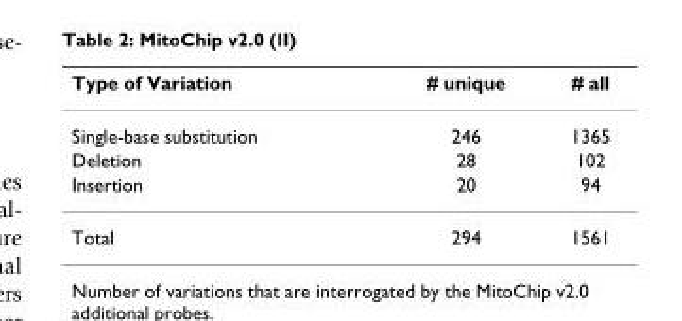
<table><thead><tr><td>Type of Variation</td><td># unique</td><td># all</td></tr></thead><tbody><tr><td>Single-base substitution</td><td>246</td><td>1365</td></tr><tr><td>Deletion</td><td>28</td><td>102</td></tr><tr><td>Insertion</td><td>20</td><td>94</td></tr><tr><td>Total</td><td>294</td><td>1561</td></tr></tbody></table>